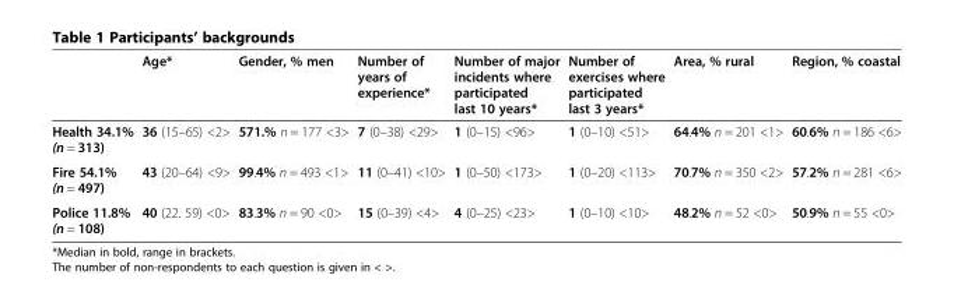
<table><thead><tr><td></td><td>Age*</td><td>Gender, % men</td><td>Number of years of experience*</td><td>Number of major incidents where participated last 10 years*</td><td>Number of exercises where participated last 3 years*</td><td>Area, % rural</td><td>Region, % coastal</td></tr></thead><tbody><tr><td>Health 34.1% (n = 313)</td><td>36 (15–65) &lt;2&gt;</td><td>571.% n = 177 &lt;3&gt;</td><td>7 (0–38) &lt;29&gt;</td><td>1 (0–15) &lt;96&gt;</td><td>1 (0–10) &lt;51&gt;</td><td>64.4% n = 201 &lt;1&gt;</td><td>60.6% n = 186 &lt;6&gt;</td></tr><tr><td>Fire 54.1% (n = 497)</td><td>43 (20–64) &lt;9&gt;</td><td>99.4% n = 493 &lt;1&gt;</td><td>11 (0–41) &lt;10&gt;</td><td>1 (0–50) &lt;173&gt;</td><td>1 (0–20) &lt;113&gt;</td><td>70.7% n = 350 &lt;2&gt;</td><td>57.2% n = 281 &lt;6&gt;</td></tr><tr><td>Police 11.8% (n = 108)</td><td>40 (22. 59) &lt;0&gt;</td><td>83.3% n = 90 &lt;0&gt;</td><td>15 (0–39) &lt;4&gt;</td><td>4 (0–25) &lt;23&gt;</td><td>1 (0–10) &lt;10&gt;</td><td>48.2% n = 52 &lt;0&gt;</td><td>50.9% n = 55 &lt;0&gt;</td></tr></tbody></table>